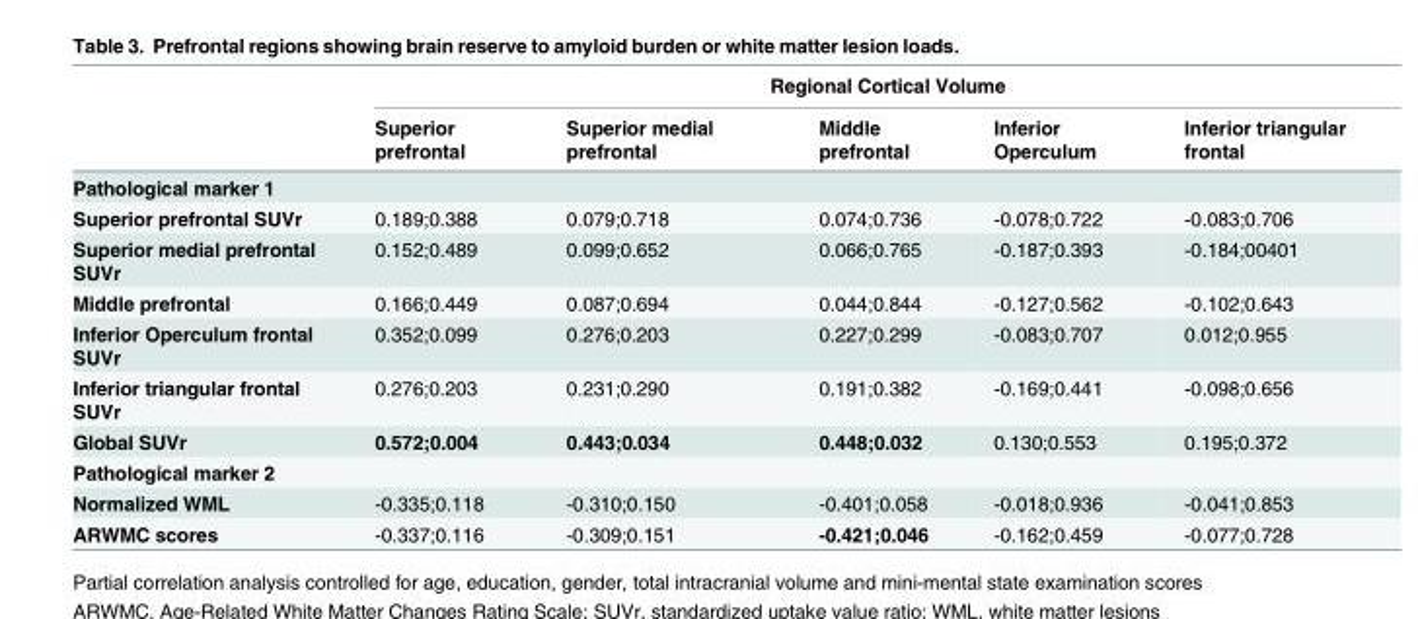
<table><thead><tr><td rowspan="2"></td><td colspan="5">Regional Cortical Volume</td></tr><tr><td>Superior prefrontal</td><td>Superior medial prefrontal</td><td>Middle prefrontal</td><td>Inferior Operculum</td><td>Inferior triangular frontal</td></tr></thead><tbody><tr><td colspan="6">Pathological marker 1</td></tr><tr><td>Superior prefrontal SUVr</td><td>0.189;0.388</td><td>0.079;0.718</td><td>0.074;0.736</td><td>-0.078;0.722</td><td>-0.083;0.706</td></tr><tr><td>Superior medial prefrontal SUVr</td><td>0.152;0.489</td><td>0.099;0.652</td><td>0.066;0.765</td><td>-0.187;0.393</td><td>-0.184;00401</td></tr><tr><td>Middle prefrontal</td><td>0.166;0.449</td><td>0.087;0.694</td><td>0.044;0.844</td><td>-0.127;0.562</td><td>-0.102;0.643</td></tr><tr><td>Inferior Operculum frontal SUVr</td><td>0.352;0.099</td><td>0.276;0.203</td><td>0.227;0.299</td><td>-0.083;0.707</td><td>0.012;0.955</td></tr><tr><td>Inferior triangular frontal SUVr</td><td>0.276;0.203</td><td>0.231;0.290</td><td>0.191;0.382</td><td>-0.169;0.441</td><td>-0.098;0.656</td></tr><tr><td>Global SUVr</td><td>0.572;0.004</td><td>0.443;0.034</td><td>0.448;0.032</td><td>0.130;0.553</td><td>0.195;0.372</td></tr><tr><td colspan="6">Pathological marker 2</td></tr><tr><td>Normalized WML</td><td>-0.335;0.118</td><td>-0.310;0.150</td><td>-0.401;0.058</td><td>-0.018;0.936</td><td>-0.041;0.853</td></tr><tr><td>ARWMC scores</td><td>-0.337;0.116</td><td>-0.309;0.151</td><td>-0.421;0.046</td><td>-0.162;0.459</td><td>-0.077;0.728</td></tr></tbody></table>